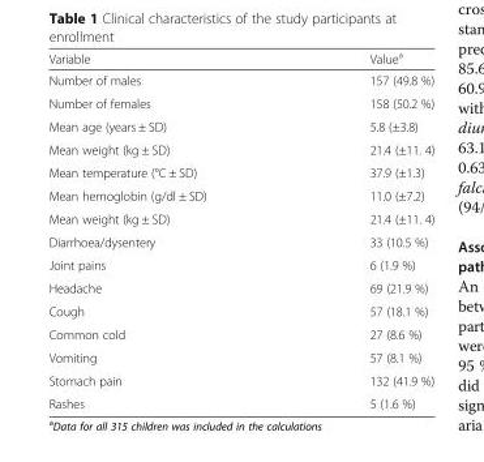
<table><thead><tr><td>Variable</td><td>Value<sup>a</sup></td></tr></thead><tbody><tr><td>Number of males</td><td>157 (49.8 %)</td></tr><tr><td>Number of females</td><td>158 (50.2 %)</td></tr><tr><td>Mean age (years ± SD)</td><td>5.8 (±3.8)</td></tr><tr><td>Mean weight (kg ± SD)</td><td>21.4 (±11. 4)</td></tr><tr><td>Mean temperature (°C ± SD)</td><td>37.9 (±1.3)</td></tr><tr><td>Mean hemoglobin (g/dl ± SD)</td><td>11.0 (±7.2)</td></tr><tr><td>Mean weight (kg ± SD)</td><td>21.4 (±11. 4)</td></tr><tr><td>Diarrhoea/dysentery</td><td>33 (10.5 %)</td></tr><tr><td>Joint pains</td><td>6 (1.9 %)</td></tr><tr><td>Headache</td><td>69 (21.9 %)</td></tr><tr><td>Cough</td><td>57 (18.1 %)</td></tr><tr><td>Common cold</td><td>27 (8.6 %)</td></tr><tr><td>Vomiting</td><td>57 (8.1 %)</td></tr><tr><td>Stomach pain</td><td>132 (41.9 %)</td></tr><tr><td>Rashes</td><td>5 (1.6 %)</td></tr></tbody></table>